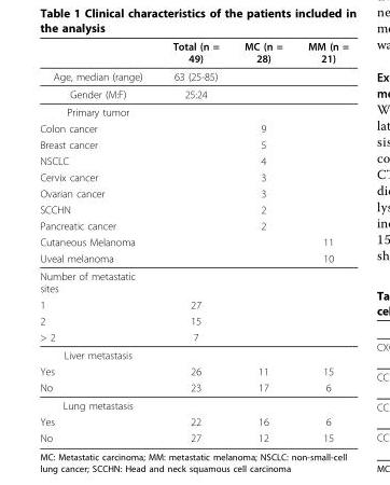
<table><thead><tr><td></td><td>Total (n = 49)</td><td>MC (n = 28)</td><td>MM (n = 21)</td></tr></thead><tbody><tr><td>Age, median (range)</td><td>63 (25-85)</td><td></td><td></td></tr><tr><td>Gender (M:F)</td><td>25:24</td><td></td><td></td></tr><tr><td colspan="4">Primary tumor</td></tr><tr><td>Colon cancer</td><td></td><td>9</td><td></td></tr><tr><td>Breast cancer</td><td></td><td>5</td><td></td></tr><tr><td>NSCLC</td><td></td><td>4</td><td></td></tr><tr><td>Cervix cancer</td><td></td><td>3</td><td></td></tr><tr><td>Ovarian cancer</td><td></td><td>3</td><td></td></tr><tr><td>SCCHN</td><td></td><td>2</td><td></td></tr><tr><td>Pancreatic cancer</td><td></td><td>2</td><td></td></tr><tr><td>Cutaneous Melanoma</td><td></td><td></td><td>11</td></tr><tr><td>Uveal melanoma</td><td></td><td></td><td>10</td></tr><tr><td colspan="4">Number of metastatic sites</td></tr><tr><td>1</td><td>27</td><td></td><td></td></tr><tr><td>2</td><td>15</td><td></td><td></td></tr><tr><td>&gt; 2</td><td>7</td><td></td><td></td></tr><tr><td colspan="4">Liver metastasis</td></tr><tr><td>Yes</td><td>26</td><td>11</td><td>15</td></tr><tr><td>No</td><td>23</td><td>17</td><td>6</td></tr><tr><td colspan="4">Lung metastasis</td></tr><tr><td>Yes</td><td>22</td><td>16</td><td>6</td></tr><tr><td>No</td><td>27</td><td>12</td><td>15</td></tr></tbody></table>